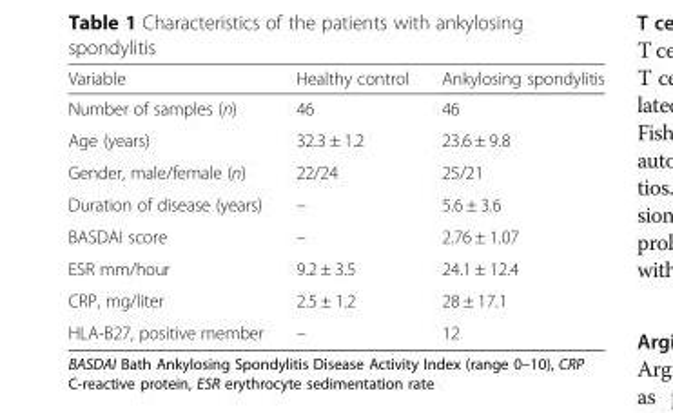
<table><thead><tr><td>Variable</td><td>Healthy control</td><td>Ankylosing spondylitis</td></tr></thead><tbody><tr><td>Number of samples (n)</td><td>46</td><td>46</td></tr><tr><td>Age (years)</td><td>32.3 ± 1.2</td><td>23.6 ± 9.8</td></tr><tr><td>Gender, male/female (n)</td><td>22/24</td><td>25/21</td></tr><tr><td>Duration of disease (years)</td><td>–</td><td>5.6 ± 3.6</td></tr><tr><td>BASDAI score</td><td>–</td><td>2.76 ± 1.07</td></tr><tr><td>ESR mm/hour</td><td>9.2 ± 3.5</td><td>24.1 ± 12.4</td></tr><tr><td>CRP, mg/liter</td><td>2.5 ± 1.2</td><td>28 ± 17.1</td></tr><tr><td>HLA-B27, positive member</td><td>–</td><td>12</td></tr></tbody></table>